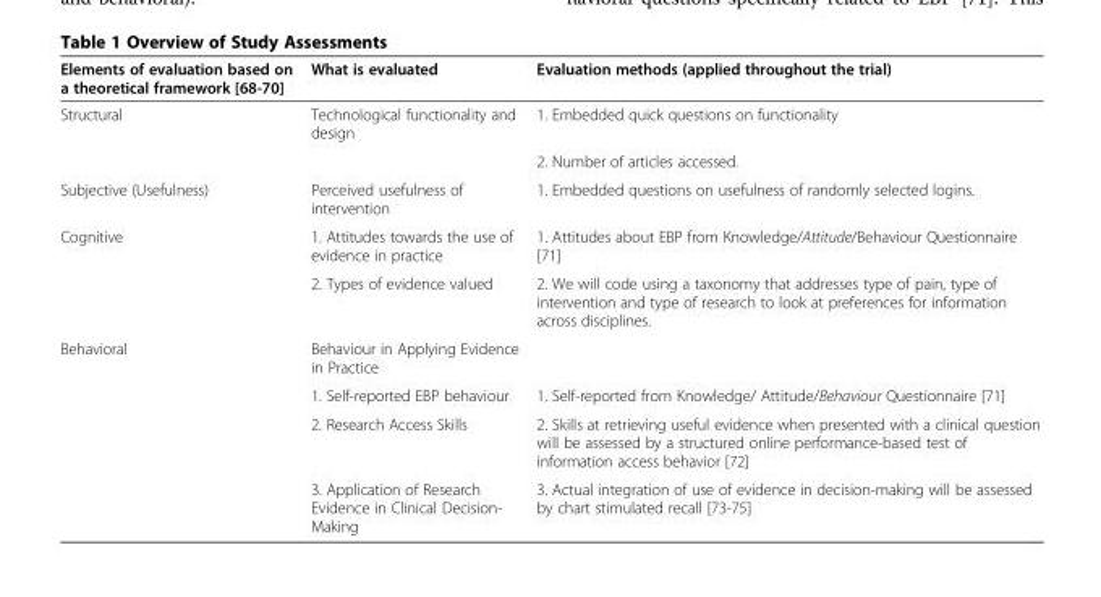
<table><thead><tr><td>Elements of evaluation based on a theoretical framework [68-70]</td><td>What is evaluated</td><td>Evaluation methods (applied throughout the trial)</td></tr></thead><tbody><tr><td rowspan="2">Structural</td><td>Technological functionality and design</td><td>1. Embedded quick questions on functionality</td></tr><tr><td></td><td>2. Number of articles accessed.</td></tr><tr><td>Subjective (Usefulness)</td><td>Perceived usefulness of intervention</td><td>1. Embedded questions on usefulness of randomly selected logins.</td></tr><tr><td rowspan="2">Cognitive</td><td>1. Attitudes towards the use of evidence in practice</td><td>1. Attitudes about EBP from Knowledge/Attitude/Behaviour Questionnaire [71]</td></tr><tr><td>2. Types of evidence valued</td><td>2. We will code using a taxonomy that addresses type of pain, type of intervention and type of research to look at preferences for information across disciplines.</td></tr><tr><td rowspan="4">Behavioral</td><td>Behaviour in Applying Evidence in Practice</td><td></td></tr><tr><td>1. Self-reported EBP behaviour</td><td>1. Self-reported from Knowledge/ Attitude/Behaviour Questionnaire [71]</td></tr><tr><td>2. Research Access Skills</td><td>2. Skills at retrieving useful evidence when presented with a clinical question will be assessed by a structured online performance-based test of information access behavior [72]</td></tr><tr><td>3. Application of Research Evidence in Clinical Decision- Making</td><td>3. Actual integration of use of evidence in decision-making will be assessed by chart stimulated recall [73-75]</td></tr></tbody></table>